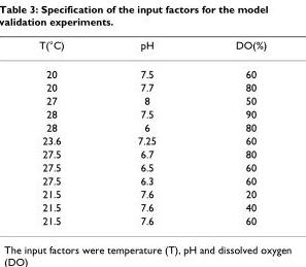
<table><thead><tr><td>T(°C)</td><td>pH</td><td>DO(%)</td></tr></thead><tbody><tr><td>20</td><td>7.5</td><td>60</td></tr><tr><td>20</td><td>7.7</td><td>80</td></tr><tr><td>27</td><td>8</td><td>50</td></tr><tr><td>28</td><td>7.5</td><td>90</td></tr><tr><td>28</td><td>6</td><td>80</td></tr><tr><td>23.6</td><td>7.25</td><td>60</td></tr><tr><td>27.5</td><td>6.7</td><td>80</td></tr><tr><td>27.5</td><td>6.5</td><td>60</td></tr><tr><td>27.5</td><td>6.3</td><td>60</td></tr><tr><td>21.5</td><td>7.6</td><td>20</td></tr><tr><td>21.5</td><td>7.6</td><td>40</td></tr><tr><td>21.5</td><td>7.6</td><td>60</td></tr></tbody></table>